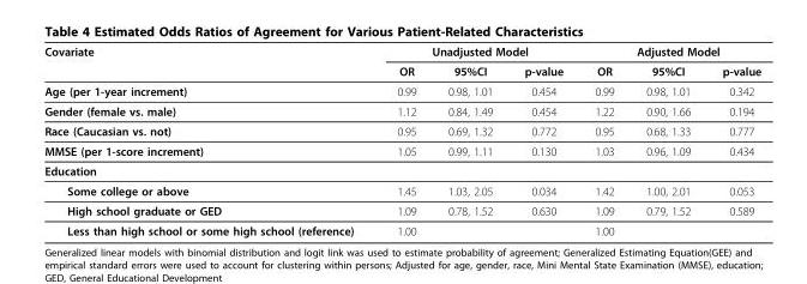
<table><thead><tr><td rowspan="2">Covariate</td><td colspan="3">Unadjusted Model</td><td colspan="3">Adjusted Model</td></tr><tr><td>OR</td><td>95%CI</td><td>p-value</td><td>OR</td><td>95%CI</td><td>p-value</td></tr></thead><tbody><tr><td>Age (per 1-year increment)</td><td>0.99</td><td>0.98, 1.01</td><td>0.454</td><td>0.99</td><td>0.98, 1.01</td><td>0.342</td></tr><tr><td>Gender (female vs. male)</td><td>1.12</td><td>0.84, 1.49</td><td>0.454</td><td>1.22</td><td>0.90, 1.66</td><td>0.194</td></tr><tr><td>Race (Caucasian vs. not)</td><td>0.95</td><td>0.69, 1.32</td><td>0.772</td><td>0.95</td><td>0.68, 1.33</td><td>0.777</td></tr><tr><td>MMSE (per 1-score increment)</td><td>1.05</td><td>0.99, 1.11</td><td>0.130</td><td>1.03</td><td>0.96, 1.09</td><td>0.434</td></tr><tr><td colspan="7">Education</td></tr><tr><td>Some college or above</td><td>1.45</td><td>1.03, 2.05</td><td>0.034</td><td>1.42</td><td>1.00, 2.01</td><td>0.053</td></tr><tr><td>High school graduate or GED</td><td>1.09</td><td>0.78, 1.52</td><td>0.630</td><td>1.09</td><td>0.79, 1.52</td><td>0.589</td></tr><tr><td>Less than high school or some high school (reference)</td><td>1.00</td><td></td><td></td><td>1.00</td><td></td><td></td></tr></tbody></table>